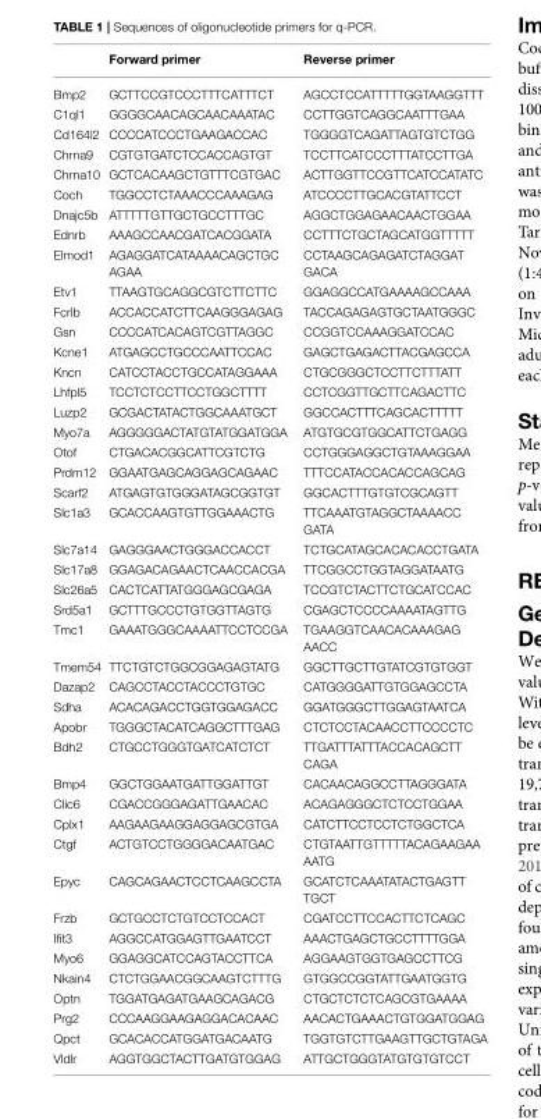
<table><thead><tr><td></td><td>Forward primer</td><td>Reverse primer</td></tr></thead><tbody><tr><td>Bmp2</td><td>GCTTCCGTCCCTTTCATTTCT</td><td>AGCCTCCATTTTTGGTAAGGTTT</td></tr><tr><td>C1ql1</td><td>GGGGCAACAGCAACAAATAC</td><td>CCTTGGTCAGGCAATTTGAA</td></tr><tr><td>Cd164l2</td><td>CCCCATCCCTGAAGACCAC</td><td>TGGGGTCAGATTAGTGTCTGG</td></tr><tr><td>Chrna9</td><td>CGTGTGATCTCCACCAGTGT</td><td>TCCTTCATCCCTTTATCCTTGA</td></tr><tr><td>Chrna10</td><td>GCTCACAAGCTGTTTCGTGAC</td><td>ACTTGGTTCCGTTCATCCATATC</td></tr><tr><td>Coch</td><td>TGGCCTCTAAACCCAAAGAG</td><td>ATCCCCTTGCACGTATTCCT</td></tr><tr><td>Dnajc5b</td><td>ATTTTTGTTGCTGCCTTTGC</td><td>AGGCTGGAGAACAACTGGAA</td></tr><tr><td>Ednrb</td><td>AAAGCCAACGATCACGGATA</td><td>CCTTTCTGCTAGCATGGTTTTT</td></tr><tr><td>Elmod1</td><td>AGAGGATCATAAAACAGCTGC AGAA</td><td>CCTAAGCAGAGATCTAGGAT GACA</td></tr><tr><td>Etv1</td><td>TTAAGTGCAGGCGTCTTCTTC</td><td>GGAGGCCATGAAAAGCCAAA</td></tr><tr><td>Fcrlb</td><td>ACCACCATCTTCAAGGGAGAG</td><td>TACCAGAGAGTGCTAATGGGC</td></tr><tr><td>Gsn</td><td>CCCCATCACAGTCGTTAGGC</td><td>CCGGTCCAAAGGATCCAC</td></tr><tr><td>Kcne1</td><td>ATGAGCCTGCCCAATTCCAC</td><td>GAGCTGAGACTTACGAGCCA</td></tr><tr><td>Kncn</td><td>CATCCTACCTGCCATAGGAAA</td><td>CTGCGGGCTCCTTCTTTATT</td></tr><tr><td>Lhfpl5</td><td>TCCTCTCCTTCCTGGCTTTT</td><td>CCTCGGTTGCTTCAGACTTC</td></tr><tr><td>Luzp2</td><td>GCGACTATACTGGCAAATGCT</td><td>GGCCACTTTCAGCACTTTTT</td></tr><tr><td>Myo7a</td><td>AGGGGGACTATGTATGGATGGA</td><td>ATGTGCGTGGCATTCTGAGG</td></tr><tr><td>Otof</td><td>CTGACACGGCATTCGTCTG</td><td>CCTGGGAGGCTGTAAAGGAA</td></tr><tr><td>Prdm12</td><td>GGAATGAGCAGGAGCAGAAC</td><td>TTTCCATACCACACCAGCAG</td></tr><tr><td>Scarf2</td><td>ATGAGTGTGGGATAGCGGTGT</td><td>GGCACTTTGTGTCGCAGTT</td></tr><tr><td>Slc1a3</td><td>GCACCAAGTGTTGGAAACTG</td><td>TTCAAATGTAGGCTAAAACC GATA</td></tr><tr><td>Slc7a14</td><td>GAGGGAACTGGGACCACCT</td><td>TCTGCATAGCACACACCTGATA</td></tr><tr><td>Slc17a8</td><td>GGAGACAGAACTCAACCACGA</td><td>TTCGGCCTGGTAGGATAATG</td></tr><tr><td>Slc26a5</td><td>CACTCATTATGGGAGCGAGA</td><td>TCCGTCTACTTCTGCATCCAC</td></tr><tr><td>Srd5a1</td><td>GCTTTGCCCTGTGGTTAGTG</td><td>CGAGCTCCCCAAAATAGTTG</td></tr><tr><td>Tmc1</td><td>GAAATGGGCAAAATTCCTCCGA</td><td>TGAAGGTCAACACAAAGAG AACC</td></tr><tr><td>Tmem54</td><td>TTCTGTCTGGCGGAGAGTATG</td><td>GGCTTGCTTGTATCGTGTGGT</td></tr><tr><td>Dazap2</td><td>CAGCCTACCTACCCTGTGC</td><td>CATGGGGATTGTGGAGCCTA</td></tr><tr><td>Sdha</td><td>ACACAGACCTGGTGGAGACC</td><td>GGATGGGCTTGGAGTAATCA</td></tr><tr><td>Apobr</td><td>TGGGCTACATCAGGCTTTGAG</td><td>CTCTCCTACAACCTTCCCCTC</td></tr><tr><td>Bdh2</td><td>CTGCCTGGGTGATCATCTCT</td><td>TTGATTTATTTACCACAGCTT CAGA</td></tr><tr><td>Bmp4</td><td>GGCTGGAATGATTGGATTGT</td><td>CACAACAGGCCTTAGGGATA</td></tr><tr><td>Clic6</td><td>CGACCGGGAGATTGAACAC</td><td>ACAGAGGGCTCTCCTGGAA</td></tr><tr><td>Cplx1</td><td>AAGAAGAAGGAGGAGCGTGA</td><td>CATCTTCCTCCTCTGGCTCA</td></tr><tr><td>Ctgf</td><td>ACTGTCCTGGGGACAATGAC</td><td>CTGTAATTGTTTTTACAGAAGAA AATG</td></tr><tr><td>Epyc</td><td>CAGCAGAACTCCTCAAGCCTA</td><td>GCATCTCAAATATACTGAGTT TGCT</td></tr><tr><td>Frzb</td><td>GCTGCCTCTGTCCTCCACT</td><td>CGATCCTTCCACTTCTCAGC</td></tr><tr><td>Ifit3</td><td>AGGCCATGGAGTTGAATCCT</td><td>AAACTGAGCTGCCTTTTGGA</td></tr><tr><td>Myo6</td><td>GGAGGCATCCAGTACCTTCA</td><td>AGGAAGTGGTGAGCCTTCG</td></tr><tr><td>Nkain4</td><td>CTCTGGAACGGCAAGTCTTTG</td><td>GTGGCCGGTATTGAATGGTG</td></tr><tr><td>Optn</td><td>TGGATGAGATGAAGCAGACG</td><td>CTGCTCTCTCAGCGTGAAAA</td></tr><tr><td>Prg2</td><td>CCCAAGGAAGAGGACACAAC</td><td>AACACTGAAACTGTGGATGGAG</td></tr><tr><td>Qpct</td><td>GCACACCATGGATGACAATG</td><td>TGGTGTCTTGAAGTTGCTGTAGA</td></tr><tr><td>Vldlr</td><td>AGGTGGCTACTTGATGTGGAG</td><td>ATTGCTGGGTATGTGTGTCCT</td></tr></tbody></table>